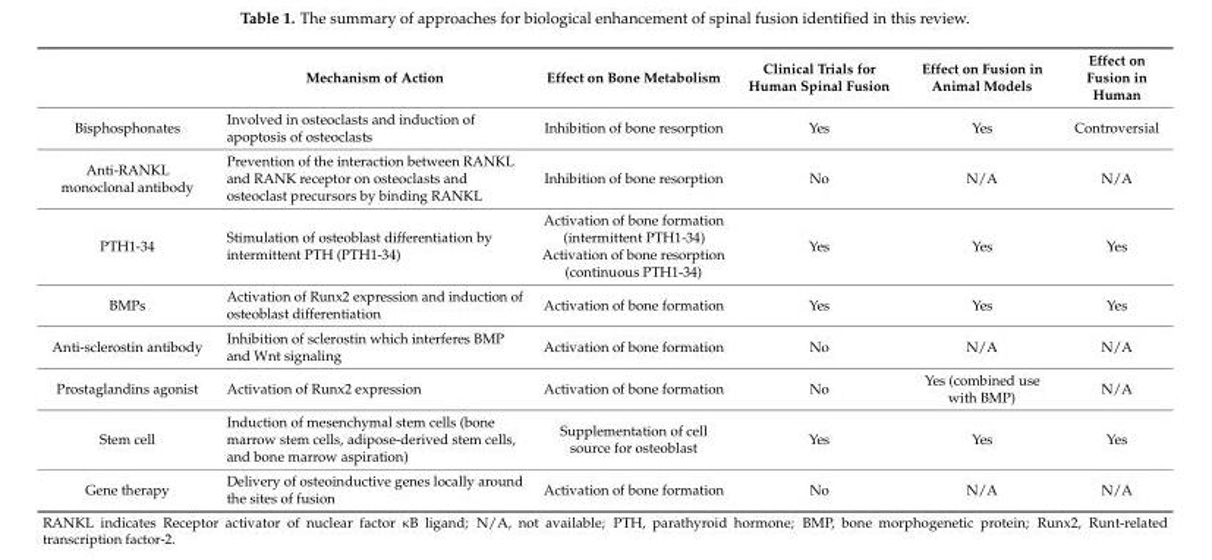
<table><thead><tr><td></td><td>Mechanism of Action</td><td>Effect on Bone Metabolism</td><td>Clinical Trials for Human Spinal Fusion</td><td>Effect on Fusion in Animal Models</td><td>Effect on Fusion in Human</td></tr></thead><tbody><tr><td>Bisphosphonates</td><td>Involved in osteoclasts and induction of apoptosis of osteoclasts</td><td>Inhibition of bone resorption</td><td>Yes</td><td>Yes</td><td>Controversial</td></tr><tr><td>Anti-RANKL monoclonal antibody</td><td>Prevention of the interaction between RANKL and RANK receptor on osteoclasts and osteoclast precursors by binding RANKL</td><td>Inhibition of bone resorption</td><td>No</td><td>N/A</td><td>N/A</td></tr><tr><td>PTH1-34</td><td>Stimulation of osteoblast differentiation by intermittent PTH (PTH1-34)</td><td>Activation of bone formation (intermittent PTH1-34) Activation of bone resorption (continuous PTH1-34)</td><td>Yes</td><td>Yes</td><td>Yes</td></tr><tr><td>BMPs</td><td>Activation of Runx2 expression and induction of osteoblast differentiation</td><td>Activation of bone formation</td><td>Yes</td><td>Yes</td><td>Yes</td></tr><tr><td>Anti-sclerostin antibody</td><td>Inhibition of sclerostin which interferes BMP and Wnt signaling</td><td>Activation of bone formation</td><td>No</td><td>N/A</td><td>N/A</td></tr><tr><td>Prostaglandins agonist</td><td>Activation of Runx2 expression</td><td>Activation of bone formation</td><td>No</td><td>Yes (combined use with BMP)</td><td>N/A</td></tr><tr><td>Stem cell</td><td>Induction of mesenchymal stem cells (bone marrow stem cells, adipose-derived stem cells, and bone marrow aspiration)</td><td>Supplementation of cell source for osteoblast</td><td>Yes</td><td>Yes</td><td>Yes</td></tr><tr><td>Gene therapy</td><td>Delivery of osteoinductive genes locally around the sites of fusion</td><td>Activation of bone formation</td><td>No</td><td>N/A</td><td>N/A</td></tr></tbody></table>